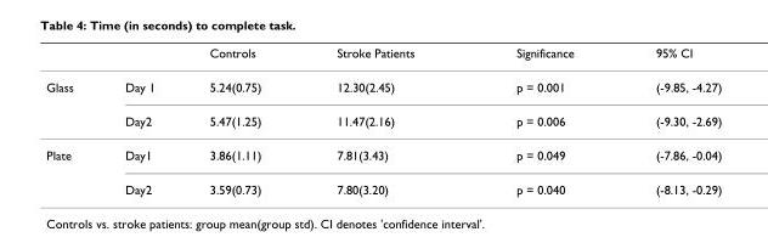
<table><thead><tr><td></td><td></td><td>Controls</td><td>Stroke Patients</td><td>Significance</td><td>95% CI</td></tr></thead><tbody><tr><td rowspan="2">Glass</td><td>Day 1</td><td>5.24(0.75)</td><td>12.30(2.45)</td><td>p = 0.001</td><td>(-9.85, -4.27)</td></tr><tr><td>Day2</td><td>5.47(1.25)</td><td>11.47(2.16)</td><td>p = 0.006</td><td>(-9.30, -2.69)</td></tr><tr><td rowspan="2">Plate</td><td>Day1</td><td>3.86(1.11)</td><td>7.81(3.43)</td><td>p = 0.049</td><td>(-7.86, -0.04)</td></tr><tr><td>Day2</td><td>3.59(0.73)</td><td>7.80(3.20)</td><td>p = 0.040</td><td>(-8.13, -0.29)</td></tr></tbody></table>